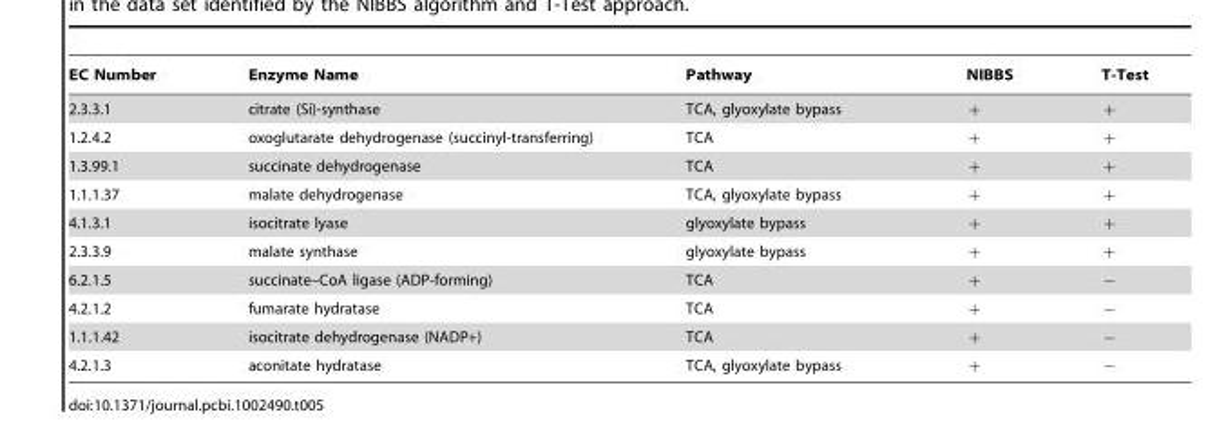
<table><thead><tr><td>EC Number</td><td>Enzyme Name</td><td>Pathway</td><td>NIBBS</td><td>T-Test</td></tr></thead><tbody><tr><td>2.3.3.1</td><td>citrate (Si)-synthase</td><td>TCA, glyoxylate bypass</td><td>z</td><td>z</td></tr><tr><td>1.2.4.2</td><td>oxoglutarate dehydrogenase (succinyl-transferring)</td><td>TCA</td><td>z</td><td>z</td></tr><tr><td>1.3.99.1</td><td>succinate dehydrogenase</td><td>TCA</td><td>z</td><td>z</td></tr><tr><td>1.1.1.37</td><td>malate dehydrogenase</td><td>TCA, glyoxylate bypass</td><td>z</td><td>z</td></tr><tr><td>4.1.3.1</td><td>isocitrate lyase</td><td>glyoxylate bypass</td><td>z</td><td>z</td></tr><tr><td>2.3.3.9</td><td>malate synthase</td><td>glyoxylate bypass</td><td>z</td><td>z</td></tr><tr><td>6.2.1.5</td><td>succinate–CoA ligase (ADP-forming)</td><td>TCA</td><td>z</td><td>{</td></tr><tr><td>4.2.1.2</td><td>fumarate hydratase</td><td>TCA</td><td>z</td><td>{</td></tr><tr><td>1.1.1.42</td><td>isocitrate dehydrogenase (NADP+)</td><td>TCA</td><td>z</td><td>{</td></tr><tr><td>4.2.1.3</td><td>aconitate hydratase</td><td>TCA, glyoxylate bypass</td><td>z</td><td>{</td></tr></tbody></table>